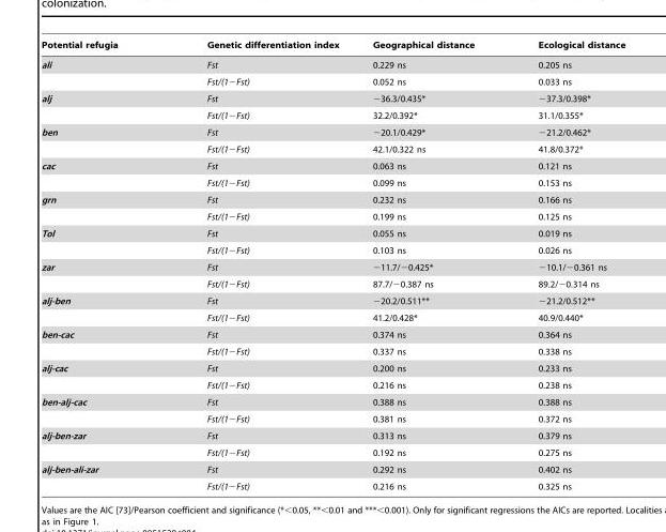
<table><thead><tr><td>Potential refugia</td><td>Genetic differentiation index</td><td>Geographical distance</td><td>Ecological distance</td></tr></thead><tbody><tr><td rowspan="2">ali</td><td>Fst</td><td>0.229 ns</td><td>0.205 ns</td></tr><tr><td>Fst/(1−Fst)</td><td>0.052 ns</td><td>0.033 ns</td></tr><tr><td rowspan="2">alj</td><td>Fst</td><td>−36.3/0.435*</td><td>−37.3/0.398*</td></tr><tr><td>Fst/(1−Fst)</td><td>32.2/0.392*</td><td>31.1/0.355*</td></tr><tr><td rowspan="2">ben</td><td>Fst</td><td>−20.1/0.429*</td><td>−21.2/0.462*</td></tr><tr><td>Fst/(1−Fst)</td><td>42.1/0.322 ns</td><td>41.8/0.372*</td></tr><tr><td rowspan="2">cac</td><td>Fst</td><td>0.063 ns</td><td>0.121 ns</td></tr><tr><td>Fst/(1−Fst)</td><td>0.099 ns</td><td>0.153 ns</td></tr><tr><td rowspan="2">grn</td><td>Fst</td><td>0.232 ns</td><td>0.166 ns</td></tr><tr><td>Fst/(1−Fst)</td><td>0.199 ns</td><td>0.125 ns</td></tr><tr><td rowspan="2">Tol</td><td>Fst</td><td>0.055 ns</td><td>0.019 ns</td></tr><tr><td>Fst/(1−Fst)</td><td>0.103 ns</td><td>0.026 ns</td></tr><tr><td rowspan="2">zar</td><td>Fst</td><td>−11.7/−0.425*</td><td>−10.1/−0.361 ns</td></tr><tr><td>Fst/(1−Fst)</td><td>87.7/−0.387 ns</td><td>89.2/−0.314 ns</td></tr><tr><td rowspan="2">alj-ben</td><td>Fst</td><td>−20.2/0.511**</td><td>−21.2/0.512**</td></tr><tr><td>Fst/(1−Fst)</td><td>41.2/0.428*</td><td>40.9/0.440*</td></tr><tr><td rowspan="2">ben-cac</td><td>Fst</td><td>0.374 ns</td><td>0.364 ns</td></tr><tr><td>Fst/(1−Fst)</td><td>0.337 ns</td><td>0.338 ns</td></tr><tr><td rowspan="2">alj-cac</td><td>Fst</td><td>0.200 ns</td><td>0.233 ns</td></tr><tr><td>Fst/(1−Fst)</td><td>0.216 ns</td><td>0.238 ns</td></tr><tr><td rowspan="2">ben-alj-cac</td><td>Fst</td><td>0.388 ns</td><td>0.388 ns</td></tr><tr><td>Fst/(1−Fst)</td><td>0.381 ns</td><td>0.372 ns</td></tr><tr><td rowspan="2">alj-ben-zar</td><td>Fst</td><td>0.313 ns</td><td>0.379 ns</td></tr><tr><td>Fst/(1−Fst)</td><td>0.192 ns</td><td>0.275 ns</td></tr><tr><td rowspan="2">alj-ben-ali-zar</td><td>Fst</td><td>0.292 ns</td><td>0.402 ns</td></tr><tr><td>Fst/(1−Fst)</td><td>0.216 ns</td><td>0.325 ns</td></tr></tbody></table>